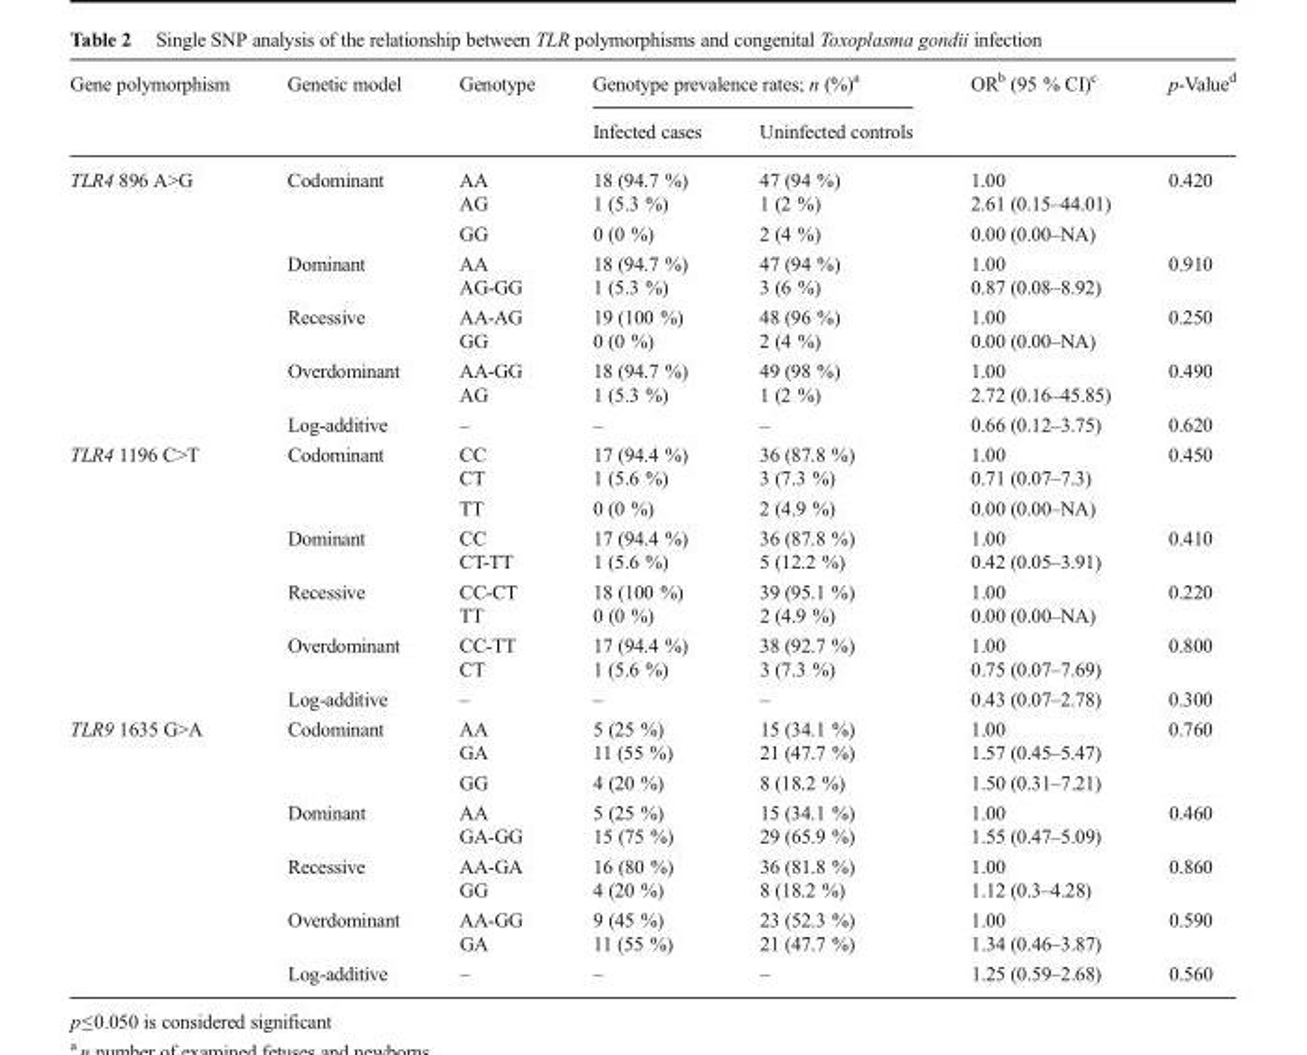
<table><thead><tr><td rowspan="2">Gene polymorphism</td><td rowspan="2">Genetic model</td><td rowspan="2">Genotype</td><td colspan="2">Genotype prevalence rates; n (%)<sup>a</sup></td><td rowspan="2">OR<sup>b</sup> (95 % CI)<sup>c</sup></td><td rowspan="2">p-Value<sup>d</sup></td></tr><tr><td>Infected cases</td><td>Uninfected controls</td></tr></thead><tbody><tr><td rowspan="10">TLR4 896 A&gt;G</td><td rowspan="3">Codominant</td><td>AA</td><td>18 (94.7 %)</td><td>47 (94 %)</td><td>1.00</td><td rowspan="3">0.420</td></tr><tr><td>AG</td><td>1 (5.3 %)</td><td>1 (2 %)</td><td>2.61 (0.15–44.01)</td></tr><tr><td>GG</td><td>0 (0 %)</td><td>2 (4 %)</td><td>0.00 (0.00–NA)</td></tr><tr><td rowspan="2">Dominant</td><td>AA</td><td>18 (94.7 %)</td><td>47 (94 %)</td><td>1.00</td><td rowspan="2">0.910</td></tr><tr><td>AG-GG</td><td>1 (5.3 %)</td><td>3 (6 %)</td><td>0.87 (0.08–8.92)</td></tr><tr><td rowspan="2">Recessive</td><td>AA-AG</td><td>19 (100 %)</td><td>48 (96 %)</td><td>1.00</td><td rowspan="2">0.250</td></tr><tr><td>GG</td><td>0 (0 %)</td><td>2 (4 %)</td><td>0.00 (0.00–NA)</td></tr><tr><td rowspan="2">Overdominant</td><td>AA-GG</td><td>18 (94.7 %)</td><td>49 (98 %)</td><td>1.00</td><td rowspan="2">0.490</td></tr><tr><td>AG</td><td>1 (5.3 %)</td><td>1 (2 %)</td><td>2.72 (0.16–45.85)</td></tr><tr><td>Log-additive</td><td>–</td><td>–</td><td>–</td><td>0.66 (0.12–3.75)</td><td>0.620</td></tr><tr><td rowspan="10">TLR4 1196 C&gt;T</td><td rowspan="3">Codominant</td><td>CC</td><td>17 (94.4 %)</td><td>36 (87.8 %)</td><td>1.00</td><td rowspan="3">0.450</td></tr><tr><td>CT</td><td>1 (5.6 %)</td><td>3 (7.3 %)</td><td>0.71 (0.07–7.3)</td></tr><tr><td>TT</td><td>0 (0 %)</td><td>2 (4.9 %)</td><td>0.00 (0.00–NA)</td></tr><tr><td rowspan="2">Dominant</td><td>CC</td><td>17 (94.4 %)</td><td>36 (87.8 %)</td><td>1.00</td><td rowspan="2">0.410</td></tr><tr><td>CT-TT</td><td>1 (5.6 %)</td><td>5 (12.2 %)</td><td>0.42 (0.05–3.91)</td></tr><tr><td rowspan="2">Recessive</td><td>CC-CT</td><td>18 (100 %)</td><td>39 (95.1 %)</td><td>1.00</td><td rowspan="2">0.220</td></tr><tr><td>TT</td><td>0 (0 %)</td><td>2 (4.9 %)</td><td>0.00 (0.00–NA)</td></tr><tr><td rowspan="2">Overdominant</td><td>CC-TT</td><td>17 (94.4 %)</td><td>38 (92.7 %)</td><td>1.00</td><td rowspan="2">0.800</td></tr><tr><td>CT</td><td>1 (5.6 %)</td><td>3 (7.3 %)</td><td>0.75 (0.07–7.69)</td></tr><tr><td>Log-additive</td><td>–</td><td>–</td><td>–</td><td>0.43 (0.07–2.78)</td><td>0.300</td></tr><tr><td rowspan="10">TLR9 1635 G&gt;A</td><td rowspan="3">Codominant</td><td>AA</td><td>5 (25 %)</td><td>15 (34.1 %)</td><td>1.00</td><td rowspan="3">0.760</td></tr><tr><td>GA</td><td>11 (55 %)</td><td>21 (47.7 %)</td><td>1.57 (0.45–5.47)</td></tr><tr><td>GG</td><td>4 (20 %)</td><td>8 (18.2 %)</td><td>1.50 (0.31–7.21)</td></tr><tr><td rowspan="2">Dominant</td><td>AA</td><td>5 (25 %)</td><td>15 (34.1 %)</td><td>1.00</td><td rowspan="2">0.460</td></tr><tr><td>GA-GG</td><td>15 (75 %)</td><td>29 (65.9 %)</td><td>1.55 (0.47–5.09)</td></tr><tr><td rowspan="2">Recessive</td><td>AA-GA</td><td>16 (80 %)</td><td>36 (81.8 %)</td><td>1.00</td><td rowspan="2">0.860</td></tr><tr><td>GG</td><td>4 (20 %)</td><td>8 (18.2 %)</td><td>1.12 (0.3–4.28)</td></tr><tr><td rowspan="2">Overdominant</td><td>AA-GG</td><td>9 (45 %)</td><td>23 (52.3 %)</td><td>1.00</td><td rowspan="2">0.590</td></tr><tr><td>GA</td><td>11 (55 %)</td><td>21 (47.7 %)</td><td>1.34 (0.46–3.87)</td></tr><tr><td>Log-additive</td><td>–</td><td>–</td><td>–</td><td>1.25 (0.59–2.68)</td><td>0.560</td></tr></tbody></table>